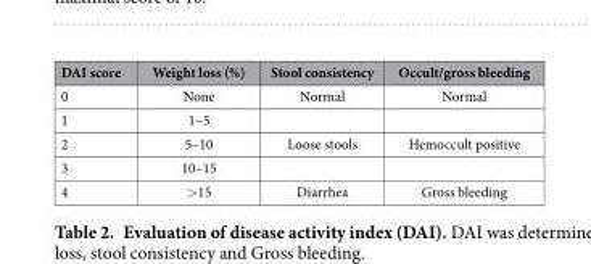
<table><thead><tr><td>DAI score</td><td>Weight loss (%)</td><td>Stool consistency</td><td>Occult/gross bleeding</td></tr></thead><tbody><tr><td>0</td><td>None</td><td>Normal</td><td>Normal</td></tr><tr><td>1</td><td>1–5</td><td></td><td></td></tr><tr><td>2</td><td>5–10</td><td>Loose stools</td><td>Hemoccult positive</td></tr><tr><td>3</td><td>10–15</td><td></td><td></td></tr><tr><td>4</td><td>&gt; 15</td><td>Diarrhea</td><td>Gross bleeding</td></tr></tbody></table>